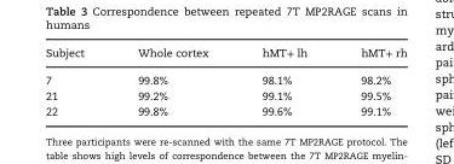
<table><thead><tr><td>Subject</td><td>Whole cortex</td><td>hMT+ lh</td><td>hMT+ rh</td></tr></thead><tbody><tr><td>7</td><td>99.8%</td><td>98.1%</td><td>98.2%</td></tr><tr><td>21</td><td>99.2%</td><td>99.1%</td><td>99.5%</td></tr><tr><td>22</td><td>99.8%</td><td>99.6%</td><td>99.1%</td></tr></tbody></table>